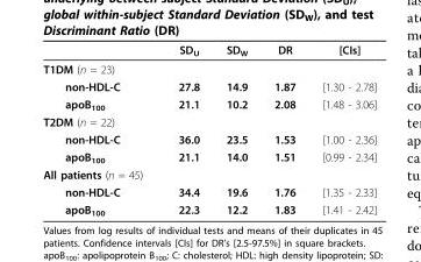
<table><thead><tr><td></td><td>SD<sub>U</sub></td><td>SD<sub>W</sub></td><td>DR</td><td>[CIs]</td></tr></thead><tbody><tr><td colspan="5">T1DM (n = 23)</td></tr><tr><td>non-HDL-C</td><td>27.8</td><td>14.9</td><td>1.87</td><td>[1.30 - 2.78]</td></tr><tr><td>apoB<sub>100</sub></td><td>21.1</td><td>10.2</td><td>2.08</td><td>[1.48 - 3.06]</td></tr><tr><td colspan="5">T2DM (n = 22)</td></tr><tr><td>non-HDL-C</td><td>36.0</td><td>23.5</td><td>1.53</td><td>[1.00 - 2.36]</td></tr><tr><td>apoB<sub>100</sub></td><td>21.1</td><td>14.0</td><td>1.51</td><td>[0.99 - 2.34]</td></tr><tr><td colspan="5">All patients (n = 45)</td></tr><tr><td>non-HDL-C</td><td>34.4</td><td>19.6</td><td>1.76</td><td>[1.35 - 2.33]</td></tr><tr><td>apoB<sub>100</sub></td><td>22.3</td><td>12.2</td><td>1.83</td><td>[1.41 - 2.42]</td></tr></tbody></table>